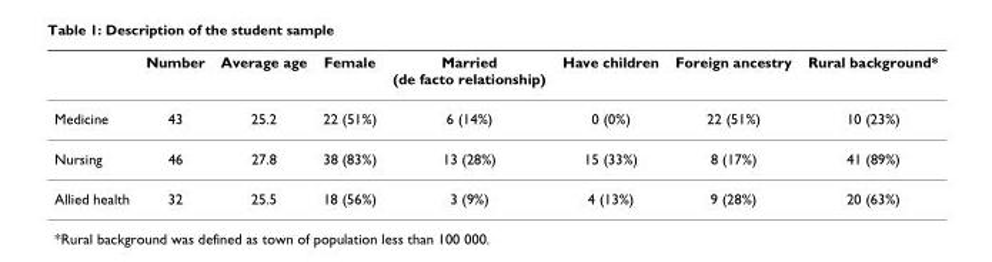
<table><thead><tr><td></td><td>Number</td><td>Average age</td><td>Female</td><td>Married (de facto relationship)</td><td>Have children</td><td>Foreign ancestry</td><td>Rural background*</td></tr></thead><tbody><tr><td>Medicine</td><td>43</td><td>25.2</td><td>22 (51%)</td><td>6 (14%)</td><td>0 (0%)</td><td>22 (51%)</td><td>10 (23%)</td></tr><tr><td>Nursing</td><td>46</td><td>27.8</td><td>38 (83%)</td><td>13 (28%)</td><td>15 (33%)</td><td>8 (17%)</td><td>41 (89%)</td></tr><tr><td>Allied health</td><td>32</td><td>25.5</td><td>18 (56%)</td><td>3 (9%)</td><td>4 (13%)</td><td>9 (28%)</td><td>20 (63%)</td></tr></tbody></table>